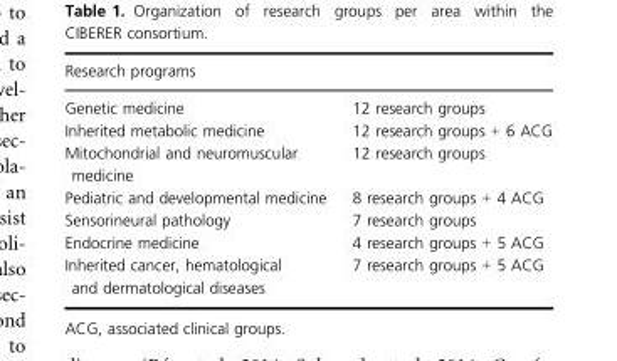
<table><thead><tr><td colspan="2">Research programs</td></tr><tr><td>Genetic medicine</td><td>12 research groups</td></tr></thead><tbody><tr><td>Inherited metabolic medicine</td><td>12 research groups + 6 ACG</td></tr><tr><td>Mitochondrial and neuromuscular medicine</td><td>12 research groups</td></tr><tr><td>Pediatric and developmental medicine</td><td>8 research groups + 4 ACG</td></tr><tr><td>Sensorineural pathology</td><td>7 research groups</td></tr><tr><td>Endocrine medicine</td><td>4 research groups + 5 ACG</td></tr><tr><td>Inherited cancer, hematological and dermatological diseases</td><td>7 research groups + 5 ACG</td></tr></tbody></table>